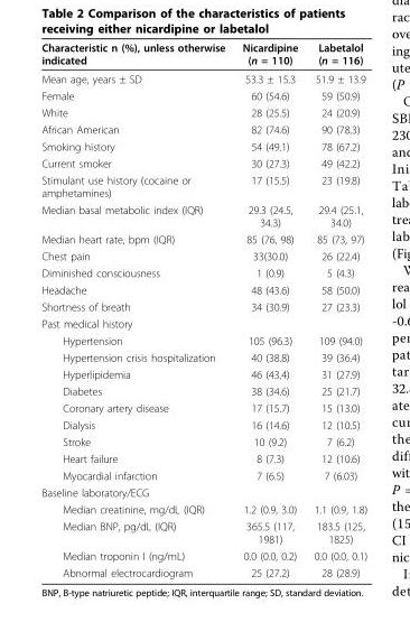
<table><thead><tr><td>Characteristic n (%), unless otherwise indicated</td><td>Nicardipine (n = 110)</td><td>Labetalol (n = 116)</td></tr></thead><tbody><tr><td>Mean age, years ± SD</td><td>53.3 ± 15.3</td><td>51.9 ± 13.9</td></tr><tr><td>Female</td><td>60 (54.6)</td><td>59 (50.9)</td></tr><tr><td>White</td><td>28 (25.5)</td><td>24 (20.9)</td></tr><tr><td>African American</td><td>82 (74.6)</td><td>90 (78.3)</td></tr><tr><td>Smoking history</td><td>54 (49.1)</td><td>78 (67.2)</td></tr><tr><td>Current smoker</td><td>30 (27.3)</td><td>49 (42.2)</td></tr><tr><td>Stimulant use history (cocaine or amphetamines)</td><td>17 (15.5)</td><td>23 (19.8)</td></tr><tr><td>Median basal metabolic index (IQR)</td><td>29.3 (24.5, 34.3)</td><td>29.4 (25.1, 34.0)</td></tr><tr><td>Median heart rate, bpm (IQR)</td><td>85 (76, 98)</td><td>85 (73, 97)</td></tr><tr><td>Chest pain</td><td>33(30.0)</td><td>26 (22.4)</td></tr><tr><td>Diminished consciousness</td><td>1 (0.9)</td><td>5 (4.3)</td></tr><tr><td>Headache</td><td>48 (43.6)</td><td>58 (50.0)</td></tr><tr><td>Shortness of breath</td><td>34 (30.9)</td><td>27 (23.3)</td></tr><tr><td colspan="3">Past medical history</td></tr><tr><td>Hypertension</td><td>105 (96.3)</td><td>109 (94.0)</td></tr><tr><td>Hypertension crisis hospitalization</td><td>40 (38.8)</td><td>39 (36.4)</td></tr><tr><td>Hyperlipidemia</td><td>46 (43.4)</td><td>31 (27.9)</td></tr><tr><td>Diabetes</td><td>38 (34.6)</td><td>25 (21.7)</td></tr><tr><td>Coronary artery disease</td><td>17 (15.7)</td><td>15 (13.0)</td></tr><tr><td>Dialysis</td><td>16 (14.6)</td><td>12 (10.5)</td></tr><tr><td>Stroke</td><td>10 (9.2)</td><td>7 (6.2)</td></tr><tr><td>Heart failure</td><td>8 (7.3)</td><td>12 (10.6)</td></tr><tr><td>Myocardial infarction</td><td>7 (6.5)</td><td>7 (6.03)</td></tr><tr><td colspan="3">Baseline laboratory/ECG</td></tr><tr><td>Median creatinine, mg/dL (IQR)</td><td>1.2 (0.9, 3.0)</td><td>1.1 (0.9, 1.8)</td></tr><tr><td>Median BNP, pg/dL (IQR)</td><td>365.5 (117, 1981)</td><td>183.5 (125, 1825)</td></tr><tr><td>Median troponin I (ng/mL)</td><td>0.0 (0.0, 0.2)</td><td>0.0 (0.0, 0.1)</td></tr><tr><td>Abnormal electrocardiogram</td><td>25 (27.2)</td><td>28 (28.9)</td></tr></tbody></table>